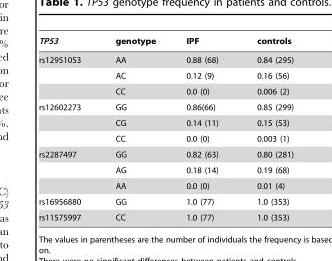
<table><thead><tr><td>TP53</td><td>genotype</td><td>IPF</td><td>controls</td></tr></thead><tbody><tr><td rowspan="3">rs12951053</td><td>AA</td><td>0.88 (68)</td><td>0.84 (295)</td></tr><tr><td>AC</td><td>0.12 (9)</td><td>0.16 (56)</td></tr><tr><td>CC</td><td>0.0 (0)</td><td>0.006 (2)</td></tr><tr><td rowspan="3">rs12602273</td><td>GG</td><td>0.86(66)</td><td>0.85 (299)</td></tr><tr><td>CG</td><td>0.14 (11)</td><td>0.15 (53)</td></tr><tr><td>CC</td><td>0.0 (0)</td><td>0.003 (1)</td></tr><tr><td rowspan="3">rs2287497</td><td>GG</td><td>0.82 (63)</td><td>0.80 (281)</td></tr><tr><td>AG</td><td>0.18 (14)</td><td>0.19 (68)</td></tr><tr><td>AA</td><td>0.0 (0)</td><td>0.01 (4)</td></tr><tr><td>rs16956880</td><td>GG</td><td>1.0 (77)</td><td>1.0 (353)</td></tr><tr><td>rs11575997</td><td>CC</td><td>1.0 (77)</td><td>1.0 (353)</td></tr></tbody></table>